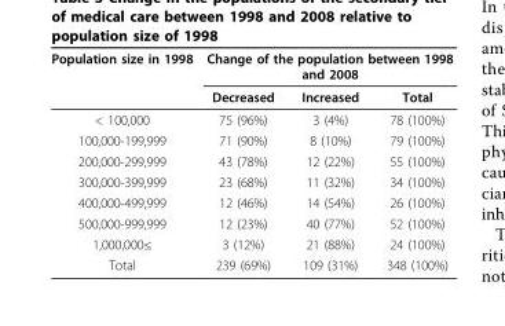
<table><thead><tr><td rowspan="2">Population size in 1998</td><td colspan="3">Change of the population between 1998 and 2008</td></tr><tr><td>Decreased</td><td>Increased</td><td>Total</td></tr></thead><tbody><tr><td>&lt; 100,000</td><td>75 (96%)</td><td>3 (4%)</td><td>78 (100%)</td></tr><tr><td>100,000-199,999</td><td>71 (90%)</td><td>8 (10%)</td><td>79 (100%)</td></tr><tr><td>200,000-299,999</td><td>43 (78%)</td><td>12 (22%)</td><td>55 (100%)</td></tr><tr><td>300,000-399,999</td><td>23 (68%)</td><td>11 (32%)</td><td>34 (100%)</td></tr><tr><td>400,000-499,999</td><td>12 (46%)</td><td>14 (54%)</td><td>26 (100%)</td></tr><tr><td>500,000-999,999</td><td>12 (23%)</td><td>40 (77%)</td><td>52 (100%)</td></tr><tr><td>1,000,000≤</td><td>3 (12%)</td><td>21 (88%)</td><td>24 (100%)</td></tr><tr><td>Total</td><td>239 (69%)</td><td>109 (31%)</td><td>348 (100%)</td></tr></tbody></table>